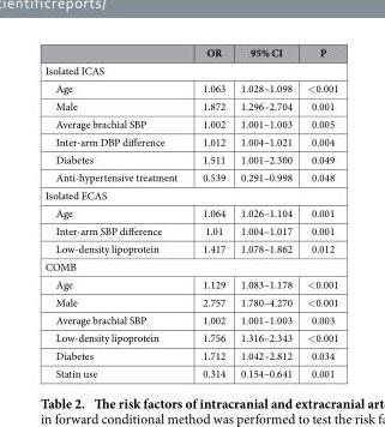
<table><thead><tr><td></td><td>OR</td><td>95% CI</td><td>P</td></tr></thead><tbody><tr><td colspan="4">Isolated ICAS</td></tr><tr><td>Age</td><td>1.063</td><td>1.028–1.098</td><td>&lt; 0.001</td></tr><tr><td>Male</td><td>1.872</td><td>1.296–2.704</td><td>0.001</td></tr><tr><td>Average brachial SBP</td><td>1.002</td><td>1.001–1.003</td><td>0.005</td></tr><tr><td>Inter-arm DBP difference</td><td>1.012</td><td>1.004–1.021</td><td>0.004</td></tr><tr><td>Diabetes</td><td>1.511</td><td>1.001–2.300</td><td>0.049</td></tr><tr><td>Anti-hypertensive treatment</td><td>0.539</td><td>0.291–0.998</td><td>0.048</td></tr><tr><td colspan="4">Isolated ECAS</td></tr><tr><td>Age</td><td>1.064</td><td>1.026–1.104</td><td>0.001</td></tr><tr><td>Inter-arm SBP difference</td><td>1.01</td><td>1.004–1.017</td><td>0.001</td></tr><tr><td>Low-density lipoprotein</td><td>1.417</td><td>1.078–1.862</td><td>0.012</td></tr><tr><td colspan="4">COMB</td></tr><tr><td>Age</td><td>1.129</td><td>1.083–1.178</td><td>&lt; 0.001</td></tr><tr><td>Male</td><td>2.757</td><td>1.780–4.270</td><td>&lt; 0.001</td></tr><tr><td>Average brachial SBP</td><td>1.002</td><td>1.001–1.003</td><td>0.003</td></tr><tr><td>Low-density lipoprotein</td><td>1.756</td><td>1.316–2.343</td><td>&lt; 0.001</td></tr><tr><td>Diabetes</td><td>1.712</td><td>1.042–2.812</td><td>0.034</td></tr><tr><td>Statin use</td><td>0.314</td><td>0.154–0.641</td><td>0.001</td></tr></tbody></table>